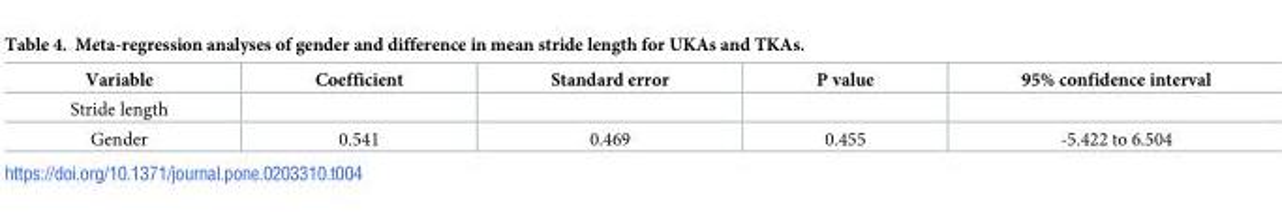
<table><thead><tr><td>Variable</td><td>Coefficient</td><td>Standard error</td><td>P value</td><td>95% confidence interval</td></tr></thead><tbody><tr><td colspan="5">Stride length</td></tr><tr><td>Gender</td><td>0.541</td><td>0.469</td><td>0.455</td><td>-5.422 to 6.504</td></tr></tbody></table>